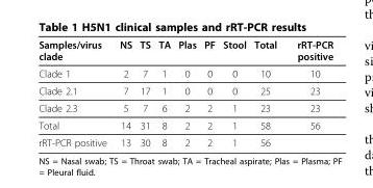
<table><thead><tr><td>Samples/virus clade</td><td>NS</td><td>TS</td><td>TA</td><td>Plas</td><td>PF</td><td>Stool</td><td>Total</td><td>rRT-PCR positive</td></tr></thead><tbody><tr><td>Clade 1</td><td>2</td><td>7</td><td>1</td><td>0</td><td>0</td><td>0</td><td>10</td><td>10</td></tr><tr><td>Clade 2.1</td><td>7</td><td>17</td><td>1</td><td>0</td><td>0</td><td>0</td><td>25</td><td>23</td></tr><tr><td>Clade 2.3</td><td>5</td><td>7</td><td>6</td><td>2</td><td>2</td><td>1</td><td>23</td><td>23</td></tr><tr><td>Total</td><td>14</td><td>31</td><td>8</td><td>2</td><td>2</td><td>1</td><td>58</td><td>56</td></tr><tr><td>rRT-PCR positive</td><td>13</td><td>30</td><td>8</td><td>2</td><td>2</td><td>1</td><td>56</td><td></td></tr></tbody></table>